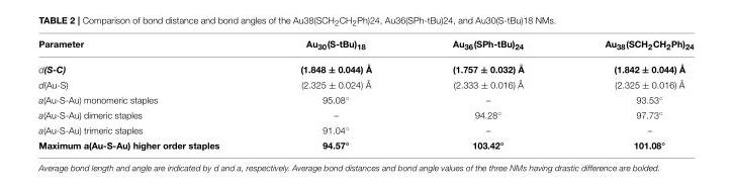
<table><thead><tr><td>Parameter</td><td>Au<sub>30</sub>(S-tBu)<sub>18</sub></td><td>Au<sub>36</sub>(SPh-tBu)<sub>24</sub></td><td>Au<sub>38</sub>(SCH<sub>2</sub>CH<sub>2</sub>Ph)<sub>24</sub></td></tr></thead><tbody><tr><td>d(S-C)</td><td>(1.848 ± 0.044) Å</td><td>(1.757 ± 0.032) Å</td><td>(1.842 ± 0.044) Å</td></tr><tr><td>d(Au-S)</td><td>(2.325 ± 0.024) Å</td><td>(2.333 ± 0.016) Å</td><td>(2.325 ± 0.016) Å</td></tr><tr><td>a(Au-S-Au) monomeric staples</td><td>95.08◦</td><td>–</td><td>93.53◦</td></tr><tr><td>a(Au-S-Au) dimeric staples</td><td>–</td><td>94.28◦</td><td>97.73◦</td></tr><tr><td>a(Au-S-Au) trimeric staples</td><td>91.04◦</td><td>–</td><td>–</td></tr><tr><td>Maximum a(Au-S-Au) higher order staples</td><td>94.57◦</td><td>103.42◦</td><td>101.08◦</td></tr></tbody></table>